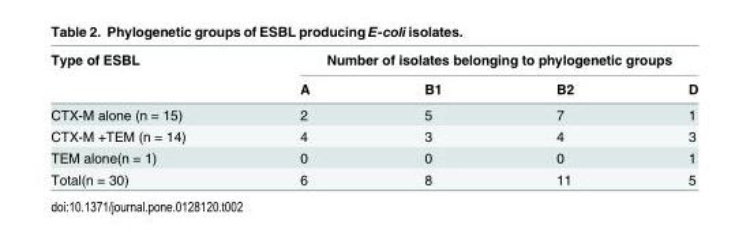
<table><thead><tr><td rowspan="2">Type of ESBL</td><td colspan="4">Number of isolates belonging to phylogenetic groups</td></tr><tr><td>A</td><td>B1</td><td>B2</td><td>D</td></tr></thead><tbody><tr><td>CTX-M alone (n = 15)</td><td>2</td><td>5</td><td>7</td><td>1</td></tr><tr><td>CTX-M +TEM (n = 14)</td><td>4</td><td>3</td><td>4</td><td>3</td></tr><tr><td>TEM alone(n = 1)</td><td>0</td><td>0</td><td>0</td><td>1</td></tr><tr><td>Total(n = 30)</td><td>6</td><td>8</td><td>11</td><td>5</td></tr></tbody></table>